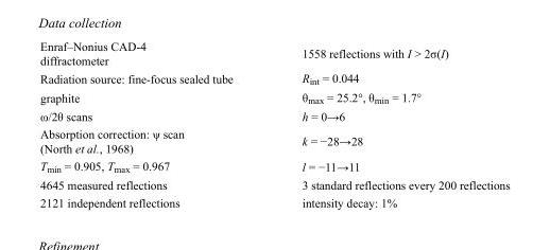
<table><tbody><tr><td>Enraf–Nonius CAD-4 diffractometer</td><td>1558 reflections with I &gt; 2σ(I)</td></tr><tr><td>Radiation source: fine-focus sealed tube</td><td>R<sub>int</sub> = 0.044</td></tr><tr><td>graphite</td><td>θ<sub>max</sub> = 25.2°, θ<sub>min</sub> = 1.7°</td></tr><tr><td>ω/2θ scans</td><td>h = 0→6</td></tr><tr><td>Absorption correction: ψ scan (North et al., 1968)</td><td>k = −28→28</td></tr><tr><td>T<sub>min</sub> = 0.905, T<sub>max</sub> = 0.967</td><td>l = −11→11</td></tr><tr><td>4645 measured reflections</td><td>3 standard reflections every 200 reflections</td></tr><tr><td>2121 independent reflections</td><td>intensity decay: 1%</td></tr></tbody></table>